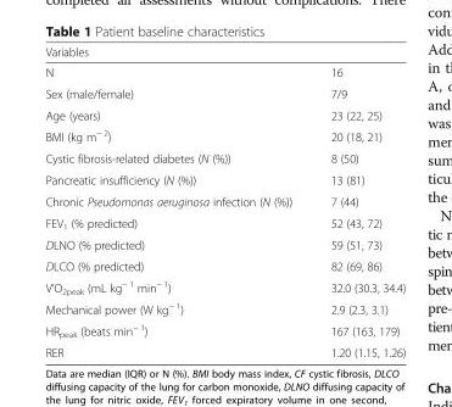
<table><thead><tr><td colspan="2">Variables</td></tr><tr><td>N</td><td>16</td></tr></thead><tbody><tr><td>Sex (male/female)</td><td>7/9</td></tr><tr><td>Age (years)</td><td>23 (22, 25)</td></tr><tr><td>BMI (kg m<sup>− 2</sup>)</td><td>20 (18, 21)</td></tr><tr><td>Cystic fibrosis-related diabetes (N (%))</td><td>8 (50)</td></tr><tr><td>Pancreatic insufficiency (N (%))</td><td>13 (81)</td></tr><tr><td>Chronic Pseudomonas aeruginosa infection (N (%))</td><td>7 (44)</td></tr><tr><td>FEV<sub>1</sub> (% predicted)</td><td>52 (43, 72)</td></tr><tr><td>DLNO (% predicted)</td><td>59 (51, 73)</td></tr><tr><td>DLCO (% predicted)</td><td>82 (69, 86)</td></tr><tr><td>V’O<sub>2peak</sub> (mL kg<sup>− 1</sup> min<sup>− 1</sup>)</td><td>32.0 (30.3, 34.4)</td></tr><tr><td>Mechanical power (W kg<sup>− 1</sup>)</td><td>2.9 (2.3, 3.1)</td></tr><tr><td>HR<sub>peak</sub> (beats min<sup>− 1</sup>)</td><td>167 (163, 179)</td></tr><tr><td>RER</td><td>1.20 (1.15, 1.26)</td></tr></tbody></table>